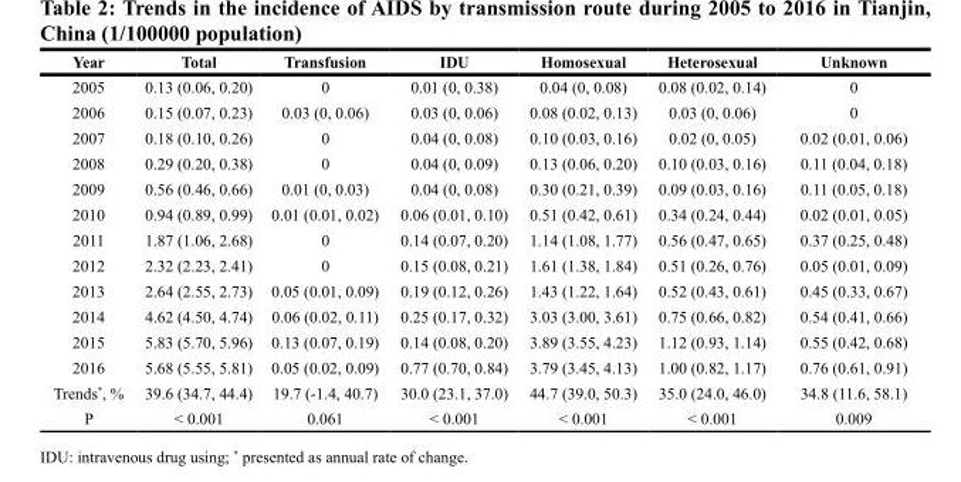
<table><thead><tr><td>Year</td><td>Total</td><td>Transfusion</td><td>IDU</td><td>Homosexual</td><td>Heterosexual</td><td>Unknown</td></tr></thead><tbody><tr><td>2005</td><td>0.13 (0.06, 0.20)</td><td>0</td><td>0.01 (0, 0.38)</td><td>0.04 (0, 0.08)</td><td>0.08 (0.02, 0.14)</td><td>0</td></tr><tr><td>2006</td><td>0.15 (0.07, 0.23)</td><td>0.03 (0, 0.06)</td><td>0.03 (0, 0.06)</td><td>0.08 (0.02, 0.13)</td><td>0.03 (0, 0.06)</td><td>0</td></tr><tr><td>2007</td><td>0.18 (0.10, 0.26)</td><td>0</td><td>0.04 (0, 0.08)</td><td>0.10 (0.03, 0.16)</td><td>0.02 (0, 0.05)</td><td>0.02 (0.01, 0.06)</td></tr><tr><td>2008</td><td>0.29 (0.20, 0.38)</td><td>0</td><td>0.04 (0, 0.09)</td><td>0.13 (0.06, 0.20)</td><td>0.10 (0.03, 0.16)</td><td>0.11 (0.04, 0.18)</td></tr><tr><td>2009</td><td>0.56 (0.46, 0.66)</td><td>0.01 (0, 0.03)</td><td>0.04 (0, 0.08)</td><td>0.30 (0.21, 0.39)</td><td>0.09 (0.03, 0.16)</td><td>0.11 (0.05, 0.18)</td></tr><tr><td>2010</td><td>0.94 (0.89, 0.99)</td><td>0.01 (0.01, 0.02)</td><td>0.06 (0.01, 0.10)</td><td>0.51 (0.42, 0.61)</td><td>0.34 (0.24, 0.44)</td><td>0.02 (0.01, 0.05)</td></tr><tr><td>2011</td><td>1.87 (1.06, 2.68)</td><td>0</td><td>0.14 (0.07, 0.20)</td><td>1.14 (1.08, 1.77)</td><td>0.56 (0.47, 0.65)</td><td>0.37 (0.25, 0.48)</td></tr><tr><td>2012</td><td>2.32 (2.23, 2.41)</td><td>0</td><td>0.15 (0.08, 0.21)</td><td>1.61 (1.38, 1.84)</td><td>0.51 (0.26, 0.76)</td><td>0.05 (0.01, 0.09)</td></tr><tr><td>2013</td><td>2.64 (2.55, 2.73)</td><td>0.05 (0.01, 0.09)</td><td>0.19 (0.12, 0.26)</td><td>1.43 (1.22, 1.64)</td><td>0.52 (0.43, 0.61)</td><td>0.45 (0.33, 0.67)</td></tr><tr><td>2014</td><td>4.62 (4.50, 4.74)</td><td>0.06 (0.02, 0.11)</td><td>0.25 (0.17, 0.32)</td><td>3.03 (3.00, 3.61)</td><td>0.75 (0.66, 0.82)</td><td>0.54 (0.41, 0.66)</td></tr><tr><td>2015</td><td>5.83 (5.70, 5.96)</td><td>0.13 (0.07, 0.19)</td><td>0.14 (0.08, 0.20)</td><td>3.89 (3.55, 4.23)</td><td>1.12 (0.93, 1.14)</td><td>0.55 (0.42, 0.68)</td></tr><tr><td>2016</td><td>5.68 (5.55, 5.81)</td><td>0.05 (0.02, 0.09)</td><td>0.77 (0.70, 0.84)</td><td>3.79 (3.45, 4.13)</td><td>1.00 (0.82, 1.17)</td><td>0.76 (0.61, 0.91)</td></tr><tr><td>Trends*, %</td><td>39.6 (34.7, 44.4)</td><td>19.7 (-1.4, 40.7)</td><td>30.0 (23.1, 37.0)</td><td>44.7 (39.0, 50.3)</td><td>35.0 (24.0, 46.0)</td><td>34.8 (11.6, 58.1)</td></tr><tr><td>P</td><td>&lt; 0.001</td><td>0.061</td><td>&lt; 0.001</td><td>&lt; 0.001</td><td>&lt; 0.001</td><td>0.009</td></tr></tbody></table>